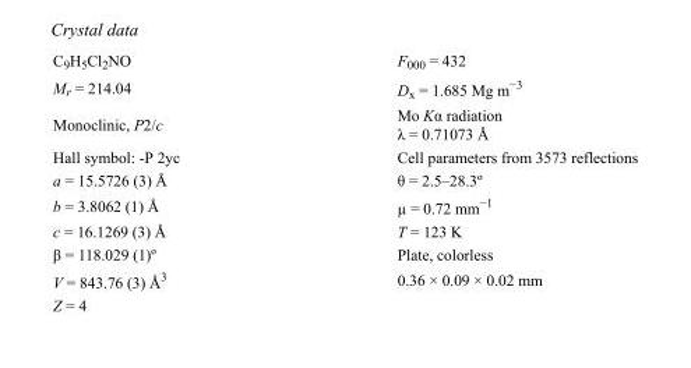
<table><tbody><tr><td>C<sub>9</sub>H<sub>5</sub>Cl<sub>2</sub>NO</td><td>F000 = 432</td></tr><tr><td>M<sub>r</sub> = 214.04</td><td>D<sub>x</sub> = 1.685 Mg m<sup>−3</sup></td></tr><tr><td>Monoclinic, P2/c</td><td>Mo Kα radiation λ = 0.71073 Å</td></tr><tr><td>Hall symbol: -P 2yc</td><td>Cell parameters from 3573 reflections</td></tr><tr><td>a = 15.5726 (3) Å</td><td>θ = 2.5–28.3º</td></tr><tr><td>b = 3.8062 (1) Å</td><td>µ = 0.72 mm<sup>−1</sup></td></tr><tr><td>c = 16.1269 (3) Å</td><td>T = 123 K</td></tr><tr><td>β = 118.029 (1)º</td><td>Plate, colorless</td></tr><tr><td>V = 843.76 (3) Å<sup>3</sup></td><td>0.36 × 0.09 × 0.02 mm</td></tr><tr><td>Z = 4</td><td></td></tr></tbody></table>